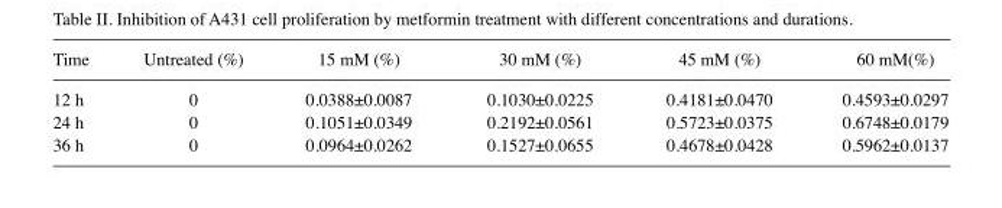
<table><thead><tr><td>Time</td><td>Untreated (%)</td><td>15 mM (%)</td><td>30 mM (%)</td><td>45 mM (%)</td><td>60 mM(%)</td></tr></thead><tbody><tr><td>12 h</td><td>0</td><td>0.0388±0.0087</td><td>0.1030±0.0225</td><td>0.4181±0.0470</td><td>0.4593±0.0297</td></tr><tr><td>24 h</td><td>0</td><td>0.1051±0.0349</td><td>0.2192±0.0561</td><td>0.5723±0.0375</td><td>0.6748±0.0179</td></tr><tr><td>36 h</td><td>0</td><td>0.0964±0.0262</td><td>0.1527±0.0655</td><td>0.4678±0.0428</td><td>0.5962±0.0137</td></tr></tbody></table>